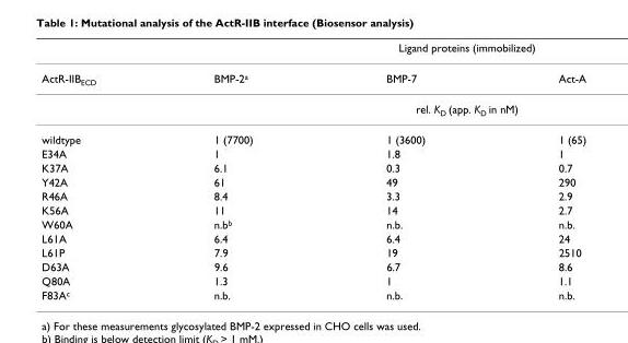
<table><thead><tr><td rowspan="2">ActR-IIB<sub>ECD</sub></td><td colspan="3">Ligand proteins (immobilized)</td></tr><tr><td>BMP-2<sup>a</sup></td><td>BMP-7</td><td>Act-A</td></tr></thead><tbody><tr><td></td><td colspan="3">rel. K<sub>D</sub> (app. K<sub>D</sub> in nM)</td></tr><tr><td>wildtype</td><td>1 (7700)</td><td>1 (3600)</td><td>1 (65)</td></tr><tr><td>E34A</td><td>1</td><td>1.8</td><td>1</td></tr><tr><td>K37A</td><td>6.1</td><td>0.3</td><td>0.7</td></tr><tr><td>Y42A</td><td>61</td><td>49</td><td>290</td></tr><tr><td>R46A</td><td>8.4</td><td>3.3</td><td>2.9</td></tr><tr><td>K56A</td><td>11</td><td>14</td><td>2.7</td></tr><tr><td>W60A</td><td>n.b<sup>b</sup></td><td>n.b.</td><td>n.b.</td></tr><tr><td>L61A</td><td>6.4</td><td>6.4</td><td>24</td></tr><tr><td>L61P</td><td>7.9</td><td>19</td><td>2510</td></tr><tr><td>D63A</td><td>9.6</td><td>6.7</td><td>8.6</td></tr><tr><td>Q80A</td><td>1.3</td><td>1</td><td>1.1</td></tr><tr><td>F83A<sup>c</sup></td><td>n.b.</td><td>n.b.</td><td>n.b.</td></tr></tbody></table>